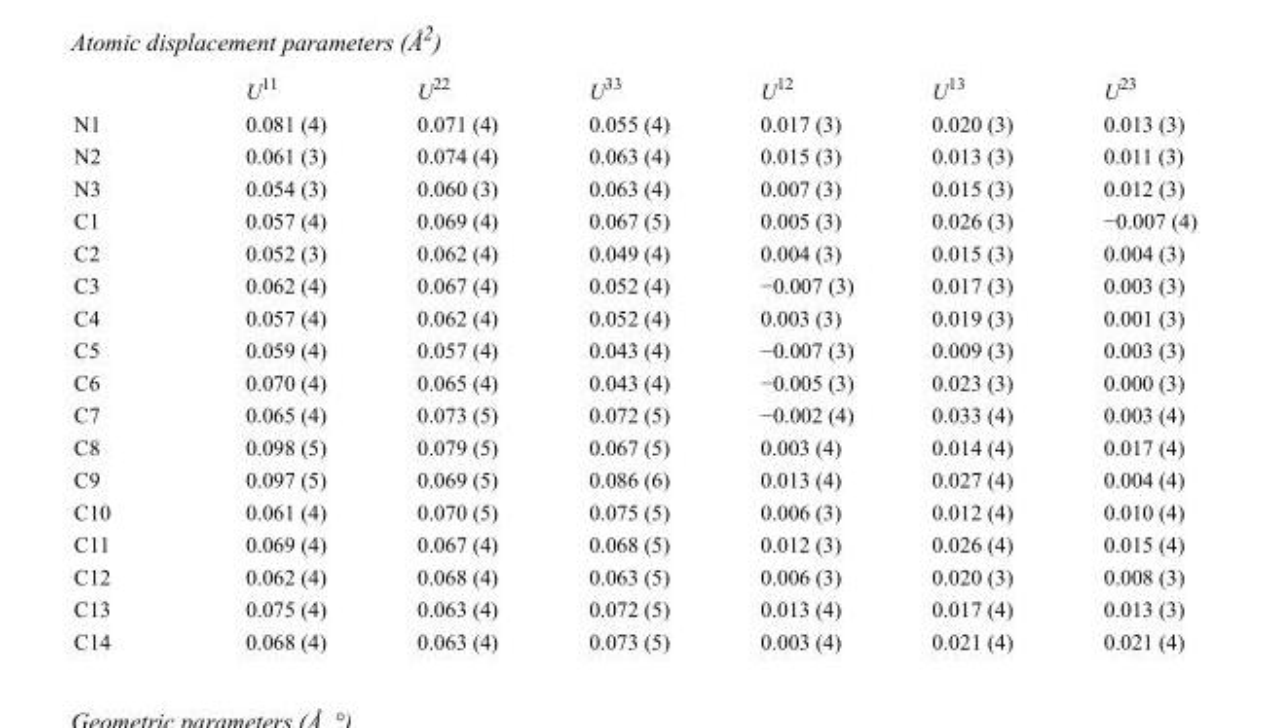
<table><thead><tr><td></td><td>U<sup>11</sup></td><td>U<sup>22</sup></td><td>U<sup>33</sup></td><td>U<sup>12</sup></td><td>U<sup>13</sup></td><td>U<sup>23</sup></td></tr></thead><tbody><tr><td>N1</td><td>0.081 (4)</td><td>0.071 (4)</td><td>0.055 (4)</td><td>0.017 (3)</td><td>0.020 (3)</td><td>0.013 (3)</td></tr><tr><td>N2</td><td>0.061 (3)</td><td>0.074 (4)</td><td>0.063 (4)</td><td>0.015 (3)</td><td>0.013 (3)</td><td>0.011 (3)</td></tr><tr><td>N3</td><td>0.054 (3)</td><td>0.060 (3)</td><td>0.063 (4)</td><td>0.007 (3)</td><td>0.015 (3)</td><td>0.012 (3)</td></tr><tr><td>C1</td><td>0.057 (4)</td><td>0.069 (4)</td><td>0.067 (5)</td><td>0.005 (3)</td><td>0.026 (3)</td><td>−0.007 (4)</td></tr><tr><td>C2</td><td>0.052 (3)</td><td>0.062 (4)</td><td>0.049 (4)</td><td>0.004 (3)</td><td>0.015 (3)</td><td>0.004 (3)</td></tr><tr><td>C3</td><td>0.062 (4)</td><td>0.067 (4)</td><td>0.052 (4)</td><td>−0.007 (3)</td><td>0.017 (3)</td><td>0.003 (3)</td></tr><tr><td>C4</td><td>0.057 (4)</td><td>0.062 (4)</td><td>0.052 (4)</td><td>0.003 (3)</td><td>0.019 (3)</td><td>0.001 (3)</td></tr><tr><td>C5</td><td>0.059 (4)</td><td>0.057 (4)</td><td>0.043 (4)</td><td>−0.007 (3)</td><td>0.009 (3)</td><td>0.003 (3)</td></tr><tr><td>C6</td><td>0.070 (4)</td><td>0.065 (4)</td><td>0.043 (4)</td><td>−0.005 (3)</td><td>0.023 (3)</td><td>0.000 (3)</td></tr><tr><td>C7</td><td>0.065 (4)</td><td>0.073 (5)</td><td>0.072 (5)</td><td>−0.002 (4)</td><td>0.033 (4)</td><td>0.003 (4)</td></tr><tr><td>C8</td><td>0.098 (5)</td><td>0.079 (5)</td><td>0.067 (5)</td><td>0.003 (4)</td><td>0.014 (4)</td><td>0.017 (4)</td></tr><tr><td>C9</td><td>0.097 (5)</td><td>0.069 (5)</td><td>0.086 (6)</td><td>0.013 (4)</td><td>0.027 (4)</td><td>0.004 (4)</td></tr><tr><td>C10</td><td>0.061 (4)</td><td>0.070 (5)</td><td>0.075 (5)</td><td>0.006 (3)</td><td>0.012 (4)</td><td>0.010 (4)</td></tr><tr><td>C11</td><td>0.069 (4)</td><td>0.067 (4)</td><td>0.068 (5)</td><td>0.012 (3)</td><td>0.026 (4)</td><td>0.015 (4)</td></tr><tr><td>C12</td><td>0.062 (4)</td><td>0.068 (4)</td><td>0.063 (5)</td><td>0.006 (3)</td><td>0.020 (3)</td><td>0.008 (3)</td></tr><tr><td>C13</td><td>0.075 (4)</td><td>0.063 (4)</td><td>0.072 (5)</td><td>0.013 (4)</td><td>0.017 (4)</td><td>0.013 (3)</td></tr><tr><td>C14</td><td>0.068 (4)</td><td>0.063 (4)</td><td>0.073 (5)</td><td>0.003 (4)</td><td>0.021 (4)</td><td>0.021 (4)</td></tr></tbody></table>